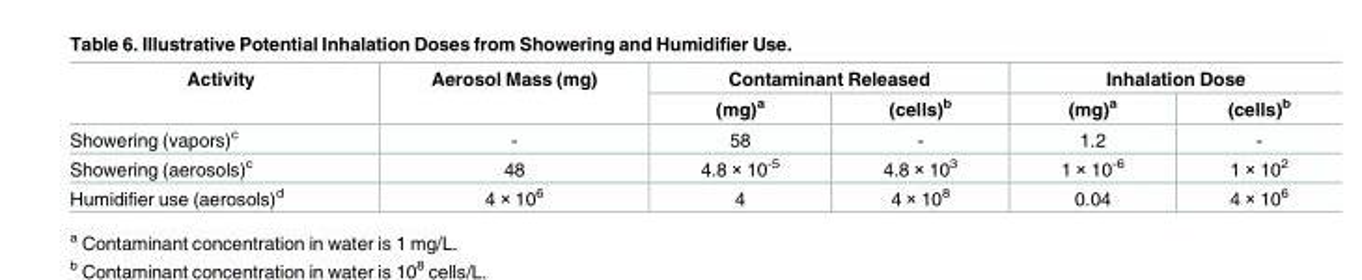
<table><thead><tr><td rowspan="2">Activity</td><td rowspan="2">Aerosol Mass (mg)</td><td colspan="2">Contaminant Released</td><td colspan="2">Inhalation Dose</td></tr><tr><td>(mg)<sup>a</sup></td><td>(cells)<sup>b</sup></td><td>(mg)<sup>a</sup></td><td>(cells)<sup>b</sup></td></tr></thead><tbody><tr><td>Showering (vapors)<sup>c</sup></td><td>-</td><td>58</td><td>-</td><td>1.2</td><td>-</td></tr><tr><td>Showering (aerosols)<sup>c</sup></td><td>48</td><td>4.8 × 10<sup>-5</sup></td><td>4.8 × 10<sup>3</sup></td><td>1 × 10<sup>-6</sup></td><td>1 × 10<sup>2</sup></td></tr><tr><td>Humidifier use (aerosols)<sup>d</sup></td><td>4 × 10<sup>6</sup></td><td>4</td><td>4 × 10<sup>8</sup></td><td>0.04</td><td>4 × 10<sup>6</sup></td></tr></tbody></table>